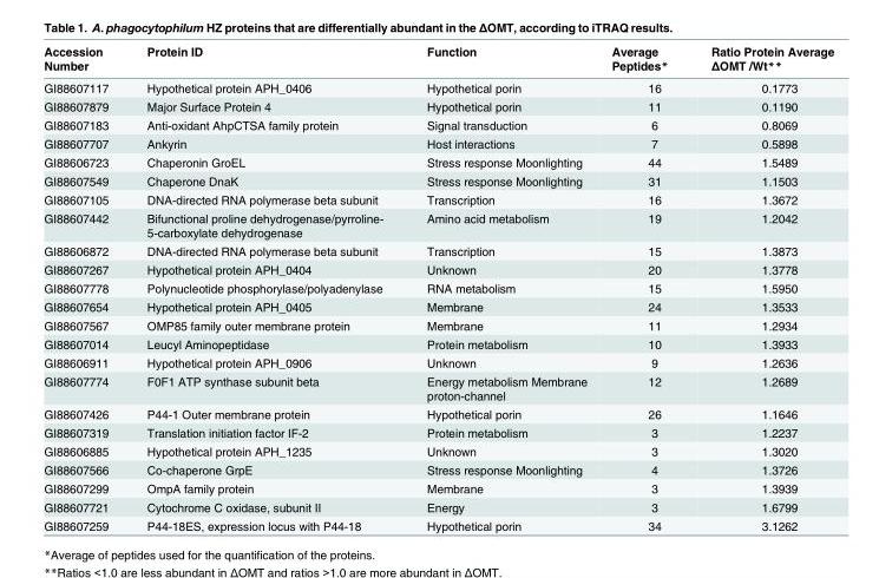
<table><thead><tr><td>Accession Number</td><td>Protein ID</td><td>Function</td><td>Average Peptides*</td><td>Ratio Protein Average ΔOMT /Wt**</td></tr></thead><tbody><tr><td>GI88607117</td><td>Hypothetical protein APH_0406</td><td>Hypothetical porin</td><td>16</td><td>0.1773</td></tr><tr><td>GI88607879</td><td>Major Surface Protein 4</td><td>Hypothetical porin</td><td>11</td><td>0.1190</td></tr><tr><td>GI88607183</td><td>Anti-oxidant AhpCTSA family protein</td><td>Signal transduction</td><td>6</td><td>0.8069</td></tr><tr><td>GI88607707</td><td>Ankyrin</td><td>Host interactions</td><td>7</td><td>0.5898</td></tr><tr><td>GI88606723</td><td>Chaperonin GroEL</td><td>Stress response Moonlighting</td><td>44</td><td>1.5489</td></tr><tr><td>GI88607549</td><td>Chaperone DnaK</td><td>Stress response Moonlighting</td><td>31</td><td>1.1503</td></tr><tr><td>GI88607105</td><td>DNA-directed RNA polymerase beta subunit</td><td>Transcription</td><td>16</td><td>1.3672</td></tr><tr><td>GI88607442</td><td>Bifunctional proline dehydrogenase/pyrroline- 5-carboxylate dehydrogenase</td><td>Amino acid metabolism</td><td>19</td><td>1.2042</td></tr><tr><td>GI88606872</td><td>DNA-directed RNA polymerase beta subunit</td><td>Transcription</td><td>15</td><td>1.3873</td></tr><tr><td>GI88607267</td><td>Hypothetical protein APH_0404</td><td>Unknown</td><td>20</td><td>1.3778</td></tr><tr><td>GI88607778</td><td>Polynucleotide phosphorylase/polyadenylase</td><td>RNA metabolism</td><td>15</td><td>1.5950</td></tr><tr><td>GI88607654</td><td>Hypothetical protein APH_0405</td><td>Membrane</td><td>24</td><td>1.3533</td></tr><tr><td>GI88607567</td><td>OMP85 family outer membrane protein</td><td>Membrane</td><td>11</td><td>1.2934</td></tr><tr><td>GI88607014</td><td>Leucyl Aminopeptidase</td><td>Protein metabolism</td><td>10</td><td>1.3933</td></tr><tr><td>GI88606911</td><td>Hypothetical protein APH_0906</td><td>Unknown</td><td>9</td><td>1.2636</td></tr><tr><td>GI88607774</td><td>F0F1 ATP synthase subunit beta</td><td>Energy metabolism Membrane proton-channel</td><td>12</td><td>1.2689</td></tr><tr><td>GI88607426</td><td>P44-1 Outer membrane protein</td><td>Hypothetical porin</td><td>26</td><td>1.1646</td></tr><tr><td>GI88607319</td><td>Translation initiation factor IF-2</td><td>Protein metabolism</td><td>3</td><td>1.2237</td></tr><tr><td>GI88606885</td><td>Hypothetical protein APH_1235</td><td>Unknown</td><td>3</td><td>1.3020</td></tr><tr><td>GI88607566</td><td>Co-chaperone GrpE</td><td>Stress response Moonlighting</td><td>4</td><td>1.3726</td></tr><tr><td>GI88607299</td><td>OmpA family protein</td><td>Membrane</td><td>3</td><td>1.3939</td></tr><tr><td>GI88607721</td><td>Cytochrome C oxidase, subunit II</td><td>Energy</td><td>3</td><td>1.6799</td></tr><tr><td>GI88607259</td><td>P44-18ES, expression locus with P44-18</td><td>Hypothetical porin</td><td>34</td><td>3.1262</td></tr></tbody></table>